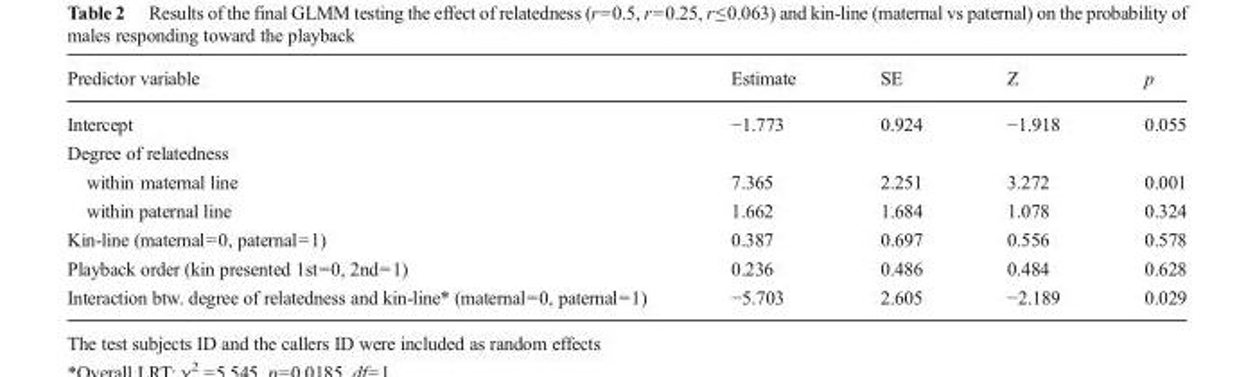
<table><thead><tr><td>Predictor variable</td><td>Estimate</td><td>SE</td><td>Z</td><td>p</td></tr></thead><tbody><tr><td>Intercept</td><td>−1.773</td><td>0.924</td><td>−1.918</td><td>0.055</td></tr><tr><td colspan="5">Degree of relatedness</td></tr><tr><td>within maternal line</td><td>7.365</td><td>2.251</td><td>3.272</td><td>0.001</td></tr><tr><td>within paternal line</td><td>1.662</td><td>1.684</td><td>1.078</td><td>0.324</td></tr><tr><td>Kin-line (maternal=0, paternal=1)</td><td>0.387</td><td>0.697</td><td>0.556</td><td>0.578</td></tr><tr><td>Playback order (kin presented 1st=0, 2nd=1)</td><td>0.236</td><td>0.486</td><td>0.484</td><td>0.628</td></tr><tr><td>Interaction btw. degree of relatedness and kin-line* (maternal=0, paternal=1)</td><td>−5.703</td><td>2.605</td><td>−2.189</td><td>0.029</td></tr></tbody></table>